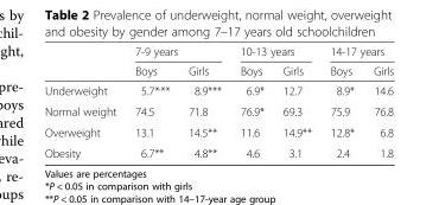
<table><thead><tr><td rowspan="2"></td><td colspan="2">7-9 years</td><td colspan="2">10-13 years</td><td colspan="2">14-17 years</td></tr><tr><td>Boys</td><td>Girls</td><td>Boys</td><td>Girls</td><td>Boys</td><td>Girls</td></tr></thead><tbody><tr><td>Underweight</td><td>5.7*<sup>,</sup>**</td><td>8.9***</td><td>6.9*</td><td>12.7</td><td>8.9*</td><td>14.6</td></tr><tr><td>Normal weight</td><td>74.5</td><td>71.8</td><td>76.9*</td><td>69.3</td><td>75.9</td><td>76.8</td></tr><tr><td>Overweight</td><td>13.1</td><td>14.5**</td><td>11.6</td><td>14.9**</td><td>12.8*</td><td>6.8</td></tr><tr><td>Obesity</td><td>6.7**</td><td>4.8**</td><td>4.6</td><td>3.1</td><td>2.4</td><td>1.8</td></tr></tbody></table>